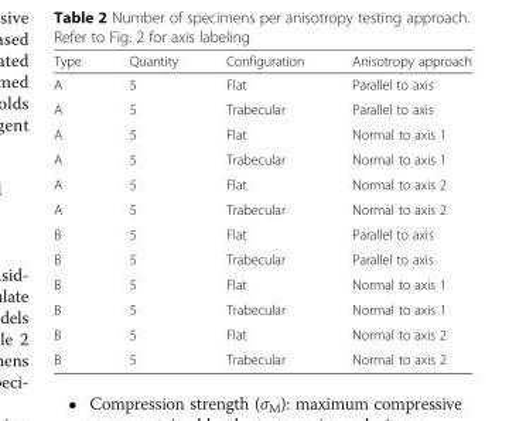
<table><thead><tr><td>Type</td><td>Quantity</td><td>Configuration</td><td>Anisotropy approach</td></tr></thead><tbody><tr><td>A</td><td>5</td><td>Flat</td><td>Parallel to axis</td></tr><tr><td>A</td><td>5</td><td>Trabecular</td><td>Parallel to axis</td></tr><tr><td>A</td><td>5</td><td>Flat</td><td>Normal to axis 1</td></tr><tr><td>A</td><td>5</td><td>Trabecular</td><td>Normal to axis 1</td></tr><tr><td>A</td><td>5</td><td>Flat</td><td>Normal to axis 2</td></tr><tr><td>A</td><td>5</td><td>Trabecular</td><td>Normal to axis 2</td></tr><tr><td>B</td><td>5</td><td>Flat</td><td>Parallel to axis</td></tr><tr><td>B</td><td>5</td><td>Trabecular</td><td>Parallel to axis</td></tr><tr><td>B</td><td>5</td><td>Flat</td><td>Normal to axis 1</td></tr><tr><td>B</td><td>5</td><td>Trabecular</td><td>Normal to axis 1</td></tr><tr><td>B</td><td>5</td><td>Flat</td><td>Normal to axis 2</td></tr><tr><td>B</td><td>5</td><td>Trabecular</td><td>Normal to axis 2</td></tr></tbody></table>